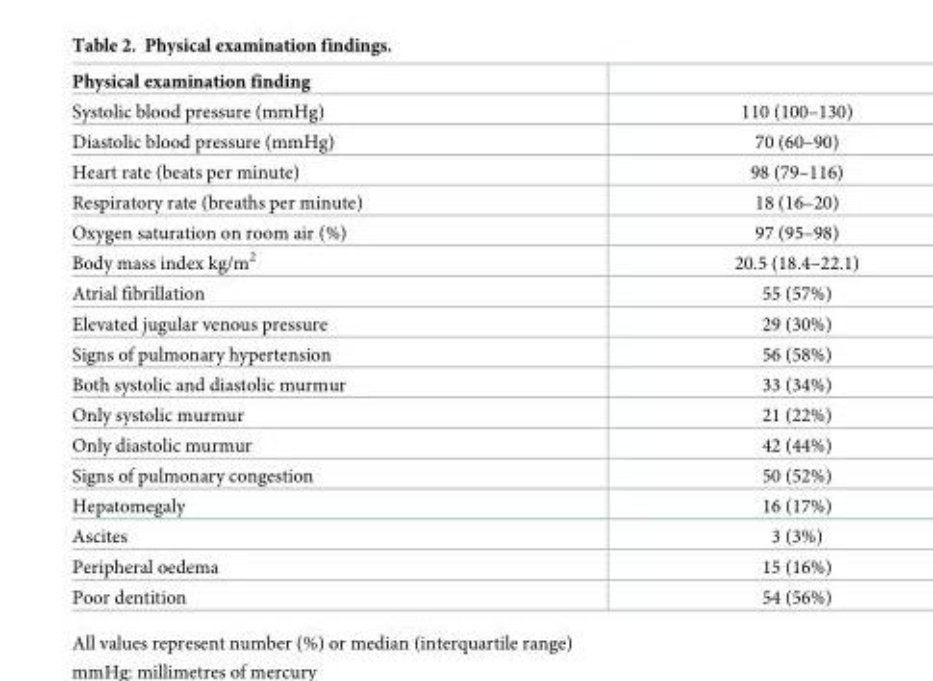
<table><thead><tr><td>Physical examination finding</td><td></td></tr></thead><tbody><tr><td>Systolic blood pressure (mmHg)</td><td>110 (100–130)</td></tr><tr><td>Diastolic blood pressure (mmHg)</td><td>70 (60–90)</td></tr><tr><td>Heart rate (beats per minute)</td><td>98 (79–116)</td></tr><tr><td>Respiratory rate (breaths per minute)</td><td>18 (16–20)</td></tr><tr><td>Oxygen saturation on room air (%)</td><td>97 (95–98)</td></tr><tr><td>Body mass index kg/m<sup>2</sup></td><td>20.5 (18.4–22.1)</td></tr><tr><td>Atrial fibrillation</td><td>55 (57%)</td></tr><tr><td>Elevated jugular venous pressure</td><td>29 (30%)</td></tr><tr><td>Signs of pulmonary hypertension</td><td>56 (58%)</td></tr><tr><td>Both systolic and diastolic murmur</td><td>33 (34%)</td></tr><tr><td>Only systolic murmur</td><td>21 (22%)</td></tr><tr><td>Only diastolic murmur</td><td>42 (44%)</td></tr><tr><td>Signs of pulmonary congestion</td><td>50 (52%)</td></tr><tr><td>Hepatomegaly</td><td>16 (17%)</td></tr><tr><td>Ascites</td><td>3 (3%)</td></tr><tr><td>Peripheral oedema</td><td>15 (16%)</td></tr><tr><td>Poor dentition</td><td>54 (56%)</td></tr></tbody></table>